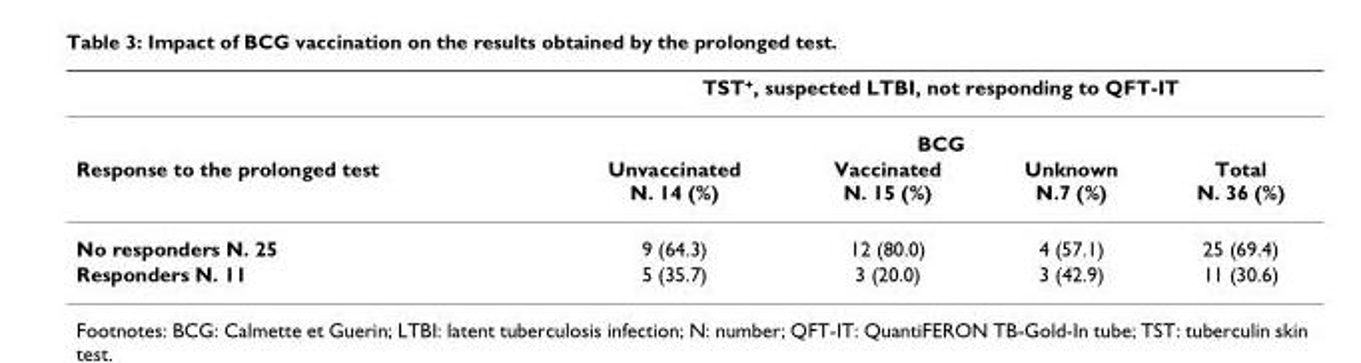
<table><thead><tr><td rowspan="3">Response to the prolonged test</td><td rowspan="2" colspan="4">TST+, suspected LTBI, not responding to QFT-IT BCG</td></tr><tr></tr><tr><td>Unvaccinated N. 14 (%)</td><td>Vaccinated N. 15 (%)</td><td>Unknown N.7 (%)</td><td>Total N. 36 (%)</td></tr></thead><tbody><tr><td>No responders N. 25</td><td>9 (64.3)</td><td>12 (80.0)</td><td>4 (57.1)</td><td>25 (69.4)</td></tr><tr><td>Responders N. 11</td><td>5 (35.7)</td><td>3 (20.0)</td><td>3 (42.9)</td><td>11 (30.6)</td></tr></tbody></table>